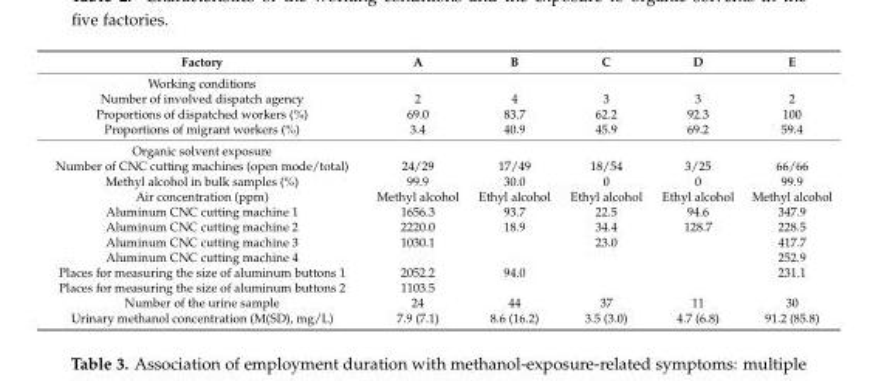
<table><thead><tr><td>Factory</td><td>A</td><td>B</td><td>C</td><td>D</td><td>E</td></tr></thead><tbody><tr><td colspan="6">Working conditions</td></tr><tr><td>Number of involved dispatch agency</td><td>2</td><td>4</td><td>3</td><td>3</td><td>2</td></tr><tr><td>Proportions of dispatched workers (%)</td><td>69.0</td><td>83.7</td><td>62.2</td><td>92.3</td><td>100</td></tr><tr><td>Proportions of migrant workers (%)</td><td>3.4</td><td>40.9</td><td>45.9</td><td>69.2</td><td>59.4</td></tr><tr><td colspan="6">Organic solvent exposure</td></tr><tr><td>Number of CNC cutting machines (open mode/total)</td><td>24/29</td><td>17/49</td><td>18/54</td><td>3/25</td><td>66/66</td></tr><tr><td>Methyl alcohol in bulk samples (%)</td><td>99.9</td><td>30.0</td><td>0</td><td>0</td><td>99.9</td></tr><tr><td>Air concentration (ppm)</td><td>Methyl alcohol</td><td>Ethyl alcohol</td><td>Ethyl alcohol</td><td>Ethyl alcohol</td><td>Methyl alcohol</td></tr><tr><td>Aluminum CNC cutting machine 1</td><td>1656.3</td><td>93.7</td><td>22.5</td><td>94.6</td><td>347.9</td></tr><tr><td>Aluminum CNC cutting machine 2</td><td>2220.0</td><td>18.9</td><td>34.4</td><td>128.7</td><td>228.5</td></tr><tr><td>Aluminum CNC cutting machine 3</td><td>1030.1</td><td></td><td>23.0</td><td></td><td>417.7</td></tr><tr><td>Aluminum CNC cutting machine 4</td><td></td><td></td><td></td><td></td><td>252.9</td></tr><tr><td>Places for measuring the size of aluminum buttons 1</td><td>2052.2</td><td>94.0</td><td></td><td></td><td>231.1</td></tr><tr><td>Places for measuring the size of aluminum buttons 2</td><td>1103.5</td><td></td><td></td><td></td><td></td></tr><tr><td>Number of the urine sample</td><td>24</td><td>44</td><td>37</td><td>11</td><td>30</td></tr><tr><td>Urinary methanol concentration (M(SD), mg/L)</td><td>7.9 (7.1)</td><td>8.6 (16.2)</td><td>3.5 (3.0)</td><td>4.7 (6.8)</td><td>91.2 (85.8)</td></tr></tbody></table>